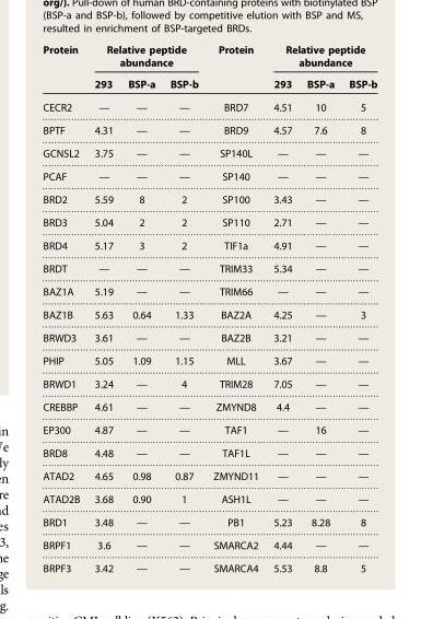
<table><thead><tr><td rowspan="2">Protein</td><td colspan="3">Relative peptide abundance</td><td rowspan="2">Protein</td><td colspan="3">Relative peptide abundance</td></tr><tr><td>293</td><td>BSP-a</td><td>BSP-b</td><td>293</td><td>BSP-a</td><td>BSP-b</td></tr></thead><tbody><tr><td>CECR2</td><td>—</td><td>—</td><td>—</td><td>BRD7</td><td>4.51</td><td>10</td><td>5</td></tr><tr><td>BPTF</td><td>4.31</td><td>—</td><td>—</td><td>BRD9</td><td>4.57</td><td>7.6</td><td>8</td></tr><tr><td>GCN5L2</td><td>3.75</td><td>—</td><td>—</td><td>SP140L</td><td>—</td><td>—</td><td>—</td></tr><tr><td>PCAF</td><td>—</td><td>—</td><td>—</td><td>SP140</td><td>—</td><td>—</td><td>—</td></tr><tr><td>BRD2</td><td>5.59</td><td>8</td><td>2</td><td>SP100</td><td>3.43</td><td>—</td><td>—</td></tr><tr><td>BRD3</td><td>5.04</td><td>2</td><td>2</td><td>SP110</td><td>2.71</td><td>—</td><td>—</td></tr><tr><td>BRD4</td><td>5.17</td><td>3</td><td>2</td><td>TIF1a</td><td>4.91</td><td>—</td><td>—</td></tr><tr><td>BRDT</td><td>—</td><td>—</td><td>—</td><td>TRIM33</td><td>5.34</td><td>—</td><td>—</td></tr><tr><td>BAZ1A</td><td>5.19</td><td>—</td><td>—</td><td>TRIM66</td><td>—</td><td>—</td><td>—</td></tr><tr><td>BAZ1B</td><td>5.63</td><td>0.64</td><td>1.33</td><td>BAZ2A</td><td>4.25</td><td>—</td><td>3</td></tr><tr><td>BRWD3</td><td>3.61</td><td>—</td><td>—</td><td>BAZ2B</td><td>3.21</td><td>—</td><td>—</td></tr><tr><td>PHIP</td><td>5.05</td><td>1.09</td><td>1.15</td><td>MLL</td><td>3.67</td><td>—</td><td>—</td></tr><tr><td>BRWD1</td><td>3.24</td><td>—</td><td>4</td><td>TRIM28</td><td>7.05</td><td>—</td><td>—</td></tr><tr><td>CREBBP</td><td>4.61</td><td>—</td><td>—</td><td>ZMYND8</td><td>4.4</td><td>—</td><td>—</td></tr><tr><td>EP300</td><td>4.87</td><td>—</td><td>—</td><td>TAF1</td><td>—</td><td>16</td><td>—</td></tr><tr><td>BRD8</td><td>4.48</td><td>—</td><td>—</td><td>TAF1L</td><td>—</td><td>—</td><td>—</td></tr><tr><td>ATAD2</td><td>4.65</td><td>0.98</td><td>0.87</td><td>ZMYND11</td><td>—</td><td>—</td><td>—</td></tr><tr><td>ATAD2B</td><td>3.68</td><td>0.90</td><td>1</td><td>ASH1L</td><td>—</td><td>—</td><td>—</td></tr><tr><td>BRD1</td><td>3.48</td><td>—</td><td>—</td><td>PB1</td><td>5.23</td><td>8.28</td><td>8</td></tr><tr><td>BRPF1</td><td>3.6</td><td>—</td><td>—</td><td>SMARCA2</td><td>4.44</td><td>—</td><td>—</td></tr><tr><td>BRPF3</td><td>3.42</td><td>—</td><td>—</td><td>SMARCA4</td><td>5.53</td><td>8.8</td><td>5</td></tr></tbody></table>